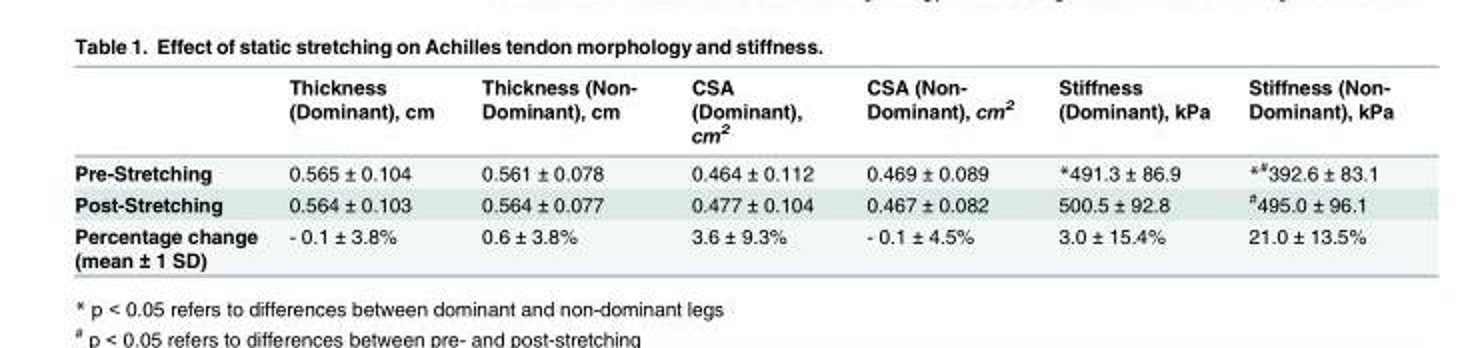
<table><thead><tr><td></td><td>Thickness (Dominant), cm</td><td>Thickness (Non- Dominant), cm</td><td>CSA (Dominant), cm<sup>2</sup></td><td>CSA (Non- Dominant), cm<sup>2</sup></td><td>Stiffness (Dominant), kPa</td><td>Stiffness (Non- Dominant), kPa</td></tr></thead><tbody><tr><td>Pre-Stretching</td><td>0.565 ± 0.104</td><td>0.561 ± 0.078</td><td>0.464 ± 0.112</td><td>0.469 ± 0.089</td><td>*491.3 ± 86.9</td><td>*<sup>#</sup>392.6 ± 83.1</td></tr><tr><td>Post-Stretching</td><td>0.564 ± 0.103</td><td>0.564 ± 0.077</td><td>0.477 ± 0.104</td><td>0.467 ± 0.082</td><td>500.5 ± 92.8</td><td><sup>#</sup>495.0 ± 96.1</td></tr><tr><td>Percentage change (mean ± 1 SD)</td><td>- 0.1 ± 3.8%</td><td>0.6 ± 3.8%</td><td>3.6 ± 9.3%</td><td>- 0.1 ± 4.5%</td><td>3.0 ± 15.4%</td><td>21.0 ± 13.5%</td></tr></tbody></table>